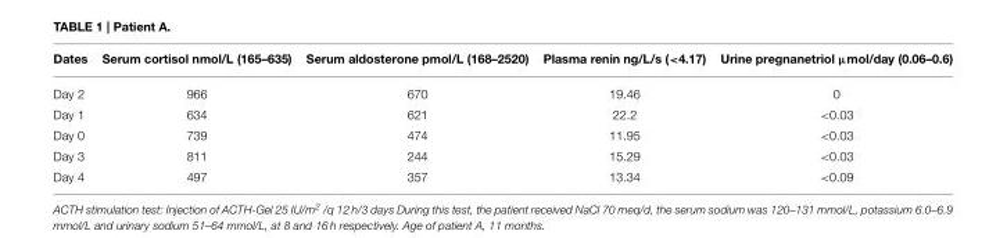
<table><thead><tr><td>Dates</td><td>Serum cortisol nmol/L (165–635)</td><td>Serum aldosterone pmol/L (168–2520)</td><td>Plasma renin ng/L/s (&lt;4.17)</td><td>Urine pregnanetriol µmol/day (0.06–0.6)</td></tr></thead><tbody><tr><td>Day 2</td><td>966</td><td>670</td><td>19.46</td><td>0</td></tr><tr><td>Day 1</td><td>634</td><td>621</td><td>22.2</td><td>&lt;0.03</td></tr><tr><td>Day 0</td><td>739</td><td>474</td><td>11.95</td><td>&lt;0.03</td></tr><tr><td>Day 3</td><td>811</td><td>244</td><td>15.29</td><td>&lt;0.03</td></tr><tr><td>Day 4</td><td>497</td><td>357</td><td>13.34</td><td>&lt;0.09</td></tr></tbody></table>